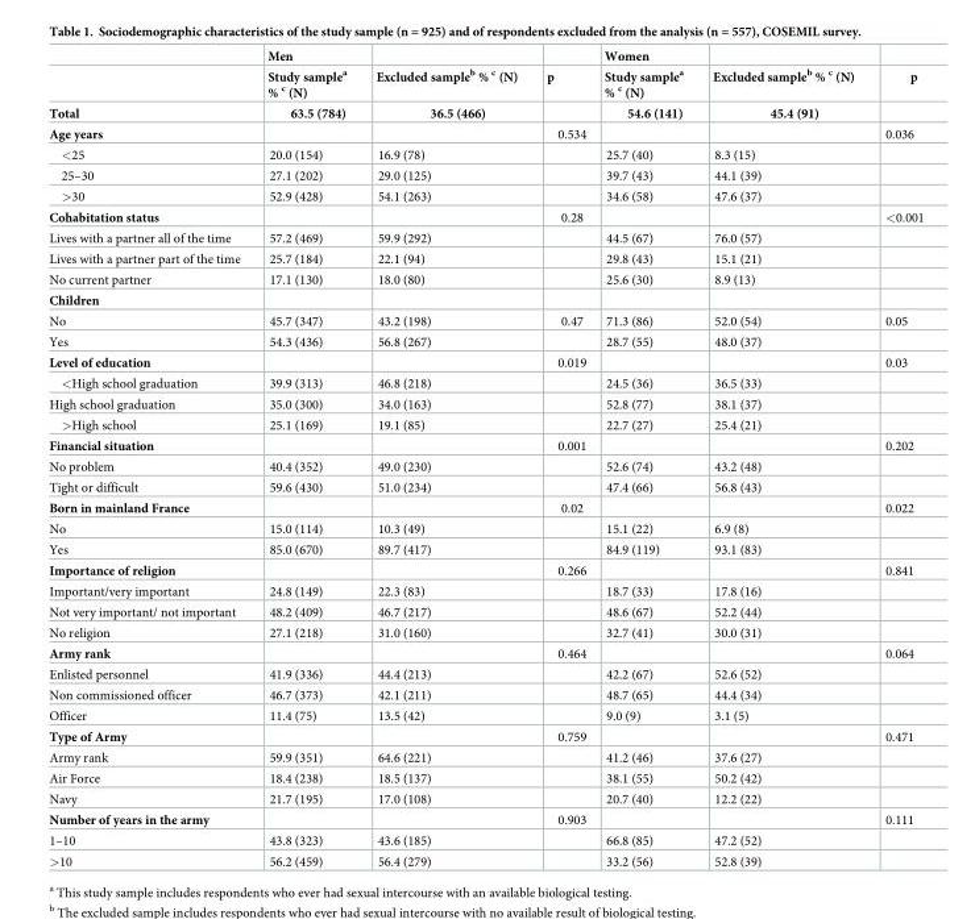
<table><thead><tr><td rowspan="2"></td><td rowspan="2">Men Study sample<sup>a</sup> % <sup>c</sup> (N)</td><td rowspan="2">Excluded sample<sup>b</sup> % <sup>c</sup> (N)</td><td rowspan="2">p</td><td rowspan="2">Women Study sample<sup>a</sup> % <sup>c</sup> (N)</td><td rowspan="2">Excluded sample<sup>b</sup> % <sup>c</sup> (N)</td><td rowspan="2">p</td></tr><tr></tr></thead><tbody><tr><td>Total</td><td>63.5 (784)</td><td>36.5 (466)</td><td></td><td>54.6 (141)</td><td>45.4 (91)</td><td></td></tr><tr><td>Age years</td><td></td><td></td><td>0.534</td><td></td><td></td><td>0.036</td></tr><tr><td>&lt;25</td><td>20.0 (154)</td><td>16.9 (78)</td><td></td><td>25.7 (40)</td><td>8.3 (15)</td><td></td></tr><tr><td>25–30</td><td>27.1 (202)</td><td>29.0 (125)</td><td></td><td>39.7 (43)</td><td>44.1 (39)</td><td></td></tr><tr><td>&gt;30</td><td>52.9 (428)</td><td>54.1 (263)</td><td></td><td>34.6 (58)</td><td>47.6 (37)</td><td></td></tr><tr><td>Cohabitation status</td><td></td><td></td><td>0.28</td><td></td><td></td><td>&lt;0.001</td></tr><tr><td>Lives with a partner all of the time</td><td>57.2 (469)</td><td>59.9 (292)</td><td></td><td>44.5 (67)</td><td>76.0 (57)</td><td></td></tr><tr><td>Lives with a partner part of the time</td><td>25.7 (184)</td><td>22.1 (94)</td><td></td><td>29.8 (43)</td><td>15.1 (21)</td><td></td></tr><tr><td>No current partner</td><td>17.1 (130)</td><td>18.0 (80)</td><td></td><td>25.6 (30)</td><td>8.9 (13)</td><td></td></tr><tr><td colspan="7">Children</td></tr><tr><td>No</td><td>45.7 (347)</td><td>43.2 (198)</td><td>0.47</td><td>71.3 (86)</td><td>52.0 (54)</td><td>0.05</td></tr><tr><td>Yes</td><td>54.3 (436)</td><td>56.8 (267)</td><td></td><td>28.7 (55)</td><td>48.0 (37)</td><td></td></tr><tr><td>Level of education</td><td></td><td></td><td>0.019</td><td></td><td></td><td>0.03</td></tr><tr><td>&lt;High school graduation</td><td>39.9 (313)</td><td>46.8 (218)</td><td></td><td>24.5 (36)</td><td>36.5 (33)</td><td></td></tr><tr><td>High school graduation</td><td>35.0 (300)</td><td>34.0 (163)</td><td></td><td>52.8 (77)</td><td>38.1 (37)</td><td></td></tr><tr><td>&gt;High school</td><td>25.1 (169)</td><td>19.1 (85)</td><td></td><td>22.7 (27)</td><td>25.4 (21)</td><td></td></tr><tr><td>Financial situation</td><td></td><td></td><td>0.001</td><td></td><td></td><td>0.202</td></tr><tr><td>No problem</td><td>40.4 (352)</td><td>49.0 (230)</td><td></td><td>52.6 (74)</td><td>43.2 (48)</td><td></td></tr><tr><td>Tight or difficult</td><td>59.6 (430)</td><td>51.0 (234)</td><td></td><td>47.4 (66)</td><td>56.8 (43)</td><td></td></tr><tr><td>Born in mainland France</td><td></td><td></td><td>0.02</td><td></td><td></td><td>0.022</td></tr><tr><td>No</td><td>15.0 (114)</td><td>10.3 (49)</td><td></td><td>15.1 (22)</td><td>6.9 (8)</td><td></td></tr><tr><td>Yes</td><td>85.0 (670)</td><td>89.7 (417)</td><td></td><td>84.9 (119)</td><td>93.1 (83)</td><td></td></tr><tr><td>Importance of religion</td><td></td><td></td><td>0.266</td><td></td><td></td><td>0.841</td></tr><tr><td>Important/very important</td><td>24.8 (149)</td><td>22.3 (83)</td><td></td><td>18.7 (33)</td><td>17.8 (16)</td><td></td></tr><tr><td>Not very important/ not important</td><td>48.2 (409)</td><td>46.7 (217)</td><td></td><td>48.6 (67)</td><td>52.2 (44)</td><td></td></tr><tr><td>No religion</td><td>27.1 (218)</td><td>31.0 (160)</td><td></td><td>32.7 (41)</td><td>30.0 (31)</td><td></td></tr><tr><td>Army rank</td><td></td><td></td><td>0.464</td><td></td><td></td><td>0.064</td></tr><tr><td>Enlisted personnel</td><td>41.9 (336)</td><td>44.4 (213)</td><td></td><td>42.2 (67)</td><td>52.6 (52)</td><td></td></tr><tr><td>Non commissioned officer</td><td>46.7 (373)</td><td>42.1 (211)</td><td></td><td>48.7 (65)</td><td>44.4 (34)</td><td></td></tr><tr><td>Officer</td><td>11.4 (75)</td><td>13.5 (42)</td><td></td><td>9.0 (9)</td><td>3.1 (5)</td><td></td></tr><tr><td>Type of Army</td><td></td><td></td><td>0.759</td><td></td><td></td><td>0.471</td></tr><tr><td>Army rank</td><td>59.9 (351)</td><td>64.6 (221)</td><td></td><td>41.2 (46)</td><td>37.6 (27)</td><td></td></tr><tr><td>Air Force</td><td>18.4 (238)</td><td>18.5 (137)</td><td></td><td>38.1 (55)</td><td>50.2 (42)</td><td></td></tr><tr><td>Navy</td><td>21.7 (195)</td><td>17.0 (108)</td><td></td><td>20.7 (40)</td><td>12.2 (22)</td><td></td></tr><tr><td>Number of years in the army</td><td></td><td></td><td>0.903</td><td></td><td></td><td>0.111</td></tr><tr><td>1–10</td><td>43.8 (323)</td><td>43.6 (185)</td><td></td><td>66.8 (85)</td><td>47.2 (52)</td><td></td></tr><tr><td>&gt;10</td><td>56.2 (459)</td><td>56.4 (279)</td><td></td><td>33.2 (56)</td><td>52.8 (39)</td><td></td></tr></tbody></table>